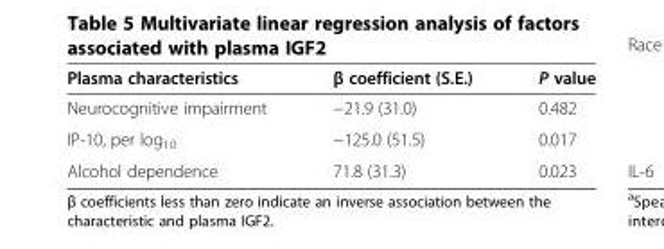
<table><thead><tr><td>Plasma characteristics</td><td>β coefficient (S.E.)</td><td>P value</td></tr></thead><tbody><tr><td>Neurocognitive impairment</td><td>−21.9 (31.0)</td><td>0.482</td></tr><tr><td>IP-10, per log<sub>10</sub></td><td>−125.0 (51.5)</td><td>0.017</td></tr><tr><td>Alcohol dependence</td><td>71.8 (31.3)</td><td>0.023</td></tr></tbody></table>